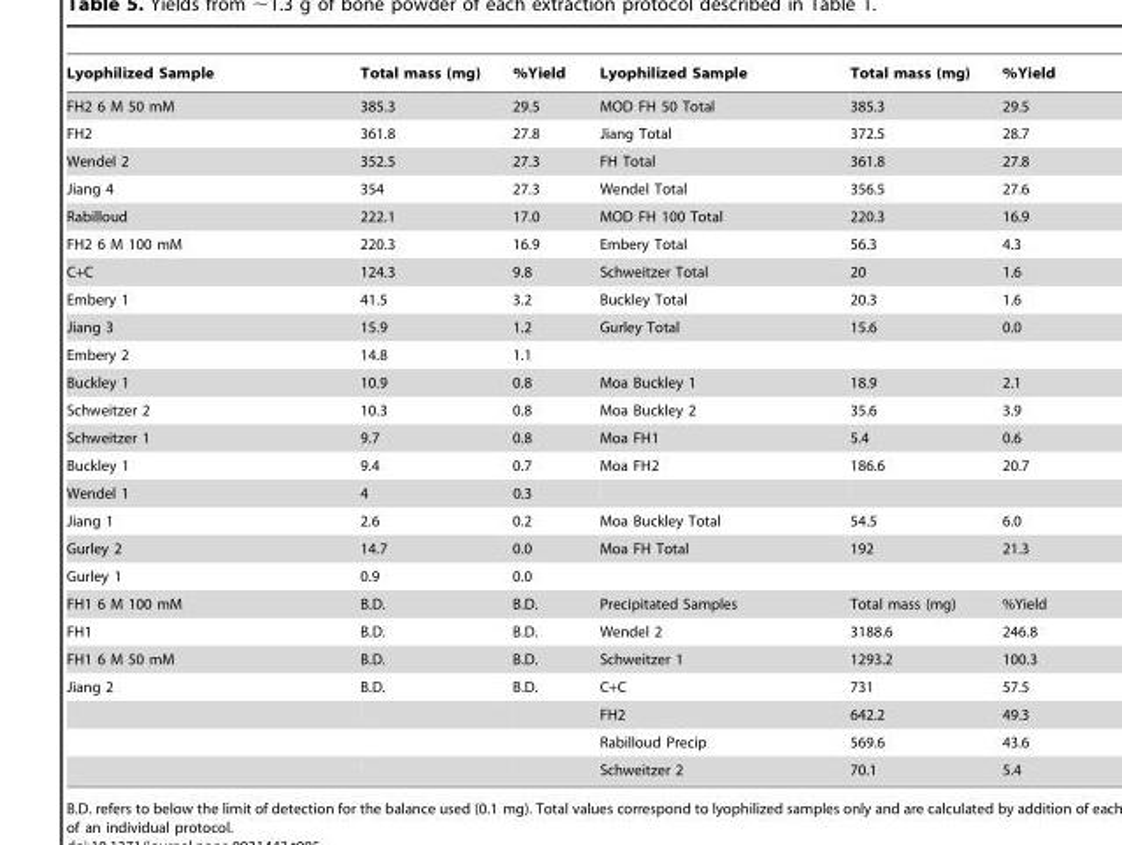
<table><thead><tr><td>Lyophilized Sample</td><td>Total mass (mg)</td><td>%Yield</td><td>Lyophilized Sample</td><td>Total mass (mg)</td><td>%Yield</td></tr></thead><tbody><tr><td>FH2 6 M 50 mM</td><td>385.3</td><td>29.5</td><td>MOD FH 50 Total</td><td>385.3</td><td>29.5</td></tr><tr><td>FH2</td><td>361.8</td><td>27.8</td><td>Jiang Total</td><td>372.5</td><td>28.7</td></tr><tr><td>Wendel 2</td><td>352.5</td><td>27.3</td><td>FH Total</td><td>361.8</td><td>27.8</td></tr><tr><td>Jiang 4</td><td>354</td><td>27.3</td><td>Wendel Total</td><td>356.5</td><td>27.6</td></tr><tr><td>Rabilloud</td><td>222.1</td><td>17.0</td><td>MOD FH 100 Total</td><td>220.3</td><td>16.9</td></tr><tr><td>FH2 6 M 100 mM</td><td>220.3</td><td>16.9</td><td>Embery Total</td><td>56.3</td><td>4.3</td></tr><tr><td>C+C</td><td>124.3</td><td>9.8</td><td>Schweitzer Total</td><td>20</td><td>1.6</td></tr><tr><td>Embery 1</td><td>41.5</td><td>3.2</td><td>Buckley Total</td><td>20.3</td><td>1.6</td></tr><tr><td>Jiang 3</td><td>15.9</td><td>1.2</td><td>Gurley Total</td><td>15.6</td><td>0.0</td></tr><tr><td>Embery 2</td><td>14.8</td><td>1.1</td><td></td><td></td><td></td></tr><tr><td>Buckley 1</td><td>10.9</td><td>0.8</td><td>Moa Buckley 1</td><td>18.9</td><td>2.1</td></tr><tr><td>Schweitzer 2</td><td>10.3</td><td>0.8</td><td>Moa Buckley 2</td><td>35.6</td><td>3.9</td></tr><tr><td>Schweitzer 1</td><td>9.7</td><td>0.8</td><td>Moa FH1</td><td>5.4</td><td>0.6</td></tr><tr><td>Buckley 1</td><td>9.4</td><td>0.7</td><td>Moa FH2</td><td>186.6</td><td>20.7</td></tr><tr><td>Wendel 1</td><td>4</td><td>0.3</td><td></td><td></td><td></td></tr><tr><td>Jiang 1</td><td>2.6</td><td>0.2</td><td>Moa Buckley Total</td><td>54.5</td><td>6.0</td></tr><tr><td>Gurley 2</td><td>14.7</td><td>0.0</td><td>Moa FH Total</td><td>192</td><td>21.3</td></tr><tr><td>Gurley 1</td><td>0.9</td><td>0.0</td><td></td><td></td><td></td></tr><tr><td>FH1 6 M 100 mM</td><td>B.D.</td><td>B.D.</td><td>Precipitated Samples</td><td>Total mass (mg)</td><td>%Yield</td></tr><tr><td>FH1</td><td>B.D.</td><td>B.D.</td><td>Wendel 2</td><td>3188.6</td><td>246.8</td></tr><tr><td>FH1 6 M 50 mM</td><td>B.D.</td><td>B.D.</td><td>Schweitzer 1</td><td>1293.2</td><td>100.3</td></tr><tr><td rowspan="4">Jiang 2</td><td>B.D.</td><td>B.D.</td><td>C+C</td><td>731</td><td>57.5</td></tr><tr><td></td><td></td><td>FH2</td><td>642.2</td><td>49.3</td></tr><tr><td></td><td></td><td>Rabilloud Precip</td><td>569.6</td><td>43.6</td></tr><tr><td></td><td></td><td>Schweitzer 2</td><td>70.1</td><td>5.4</td></tr></tbody></table>